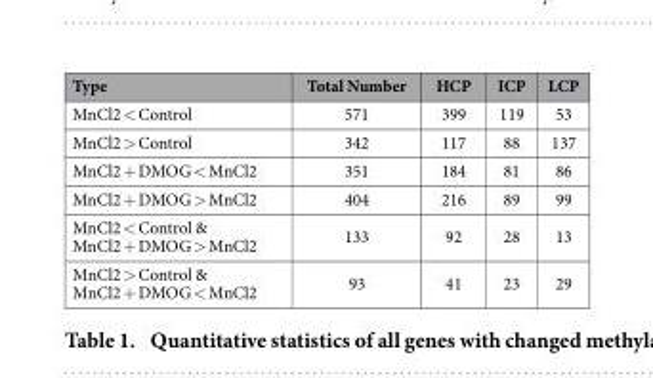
<table><thead><tr><td>Type</td><td>Total Number</td><td>HCP</td><td>ICP</td><td>LCP</td></tr></thead><tbody><tr><td>MnCl2 &lt; Control</td><td>571</td><td>399</td><td>119</td><td>53</td></tr><tr><td>MnCl2 &gt; Control</td><td>342</td><td>117</td><td>88</td><td>137</td></tr><tr><td>MnCl2 + DMOG &lt; MnCl2</td><td>351</td><td>184</td><td>81</td><td>86</td></tr><tr><td>MnCl2 + DMOG &gt; MnCl2</td><td>404</td><td>216</td><td>89</td><td>99</td></tr><tr><td>MnCl2 &lt; Control &amp; MnCl2 + DMOG &gt; MnCl2</td><td>133</td><td>92</td><td>28</td><td>13</td></tr><tr><td>MnCl2 &gt; Control &amp; MnCl2 + DMOG &lt; MnCl2</td><td>93</td><td>41</td><td>23</td><td>29</td></tr></tbody></table>